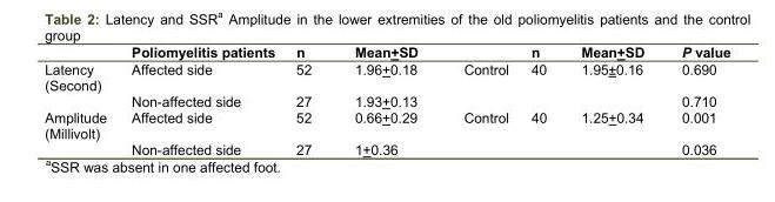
<table><thead><tr><td></td><td>Poliomyelitis patients</td><td>n</td><td>Mean+SD</td><td></td><td>n</td><td>Mean+SD</td><td>P value</td></tr></thead><tbody><tr><td rowspan="2">Latency (Second)</td><td>Affected side</td><td>52</td><td>1.96+0.18</td><td rowspan="2">Control</td><td rowspan="2">40</td><td rowspan="2">1.95±0.16</td><td>0.690</td></tr><tr><td>Non-affected side</td><td>27</td><td>1.93+0.13</td><td>0.710</td></tr><tr><td rowspan="2">Amplitude (Millivolt)</td><td>Affected side</td><td>52</td><td>0.66+0.29</td><td rowspan="2">Control</td><td rowspan="2">40</td><td rowspan="2">1.25+0.34</td><td>0.001</td></tr><tr><td>Non-affected side</td><td>27</td><td>1+0.36</td><td>0.036</td></tr></tbody></table>